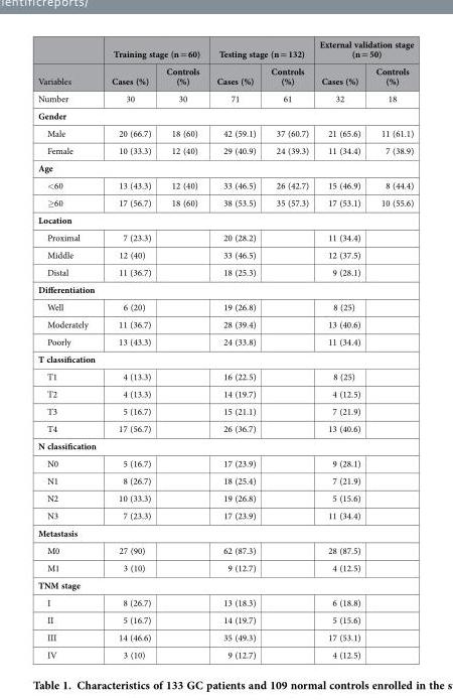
<table><thead><tr><td rowspan="2">Variables</td><td colspan="2">Training stage (n = 60)</td><td colspan="2">Testing stage (n = 132)</td><td colspan="2">External validation stage (n = 50)</td></tr><tr><td>Cases (%)</td><td>Controls (%)</td><td>Cases (%)</td><td>Controls (%)</td><td>Cases (%)</td><td>Controls (%)</td></tr></thead><tbody><tr><td>Number</td><td>30</td><td>30</td><td>71</td><td>61</td><td>32</td><td>18</td></tr><tr><td colspan="7">Gender</td></tr><tr><td>Male</td><td>20 (66.7)</td><td>18 (60)</td><td>42 (59.1)</td><td>37 (60.7)</td><td>21 (65.6)</td><td>11 (61.1)</td></tr><tr><td>Female</td><td>10 (33.3)</td><td>12 (40)</td><td>29 (40.9)</td><td>24 (39.3)</td><td>11 (34.4)</td><td>7 (38.9)</td></tr><tr><td colspan="7">Age</td></tr><tr><td>&lt;60</td><td>13 (43.3)</td><td>12 (40)</td><td>33 (46.5)</td><td>26 (42.7)</td><td>15 (46.9)</td><td>8 (44.4)</td></tr><tr><td>≥60</td><td>17 (56.7)</td><td>18 (60)</td><td>38 (53.5)</td><td>35 (57.3)</td><td>17 (53.1)</td><td>10 (55.6)</td></tr><tr><td colspan="7">Location</td></tr><tr><td>Proximal</td><td>7 (23.3)</td><td></td><td>20 (28.2)</td><td></td><td>11 (34.4)</td><td></td></tr><tr><td>Middle</td><td>12 (40)</td><td></td><td>33 (46.5)</td><td></td><td>12 (37.5)</td><td></td></tr><tr><td>Distal</td><td>11 (36.7)</td><td></td><td>18 (25.3)</td><td></td><td>9 (28.1)</td><td></td></tr><tr><td colspan="7">Differentiation</td></tr><tr><td>Well</td><td>6 (20)</td><td></td><td>19 (26.8)</td><td></td><td>8 (25)</td><td></td></tr><tr><td>Moderately</td><td>11 (36.7)</td><td></td><td>28 (39.4)</td><td></td><td>13 (40.6)</td><td></td></tr><tr><td>Poorly</td><td>13 (43.3)</td><td></td><td>24 (33.8)</td><td></td><td>11 (34.4)</td><td></td></tr><tr><td colspan="7">T classification</td></tr><tr><td>T1</td><td>4 (13.3)</td><td></td><td>16 (22.5)</td><td></td><td>8 (25)</td><td></td></tr><tr><td>T2</td><td>4 (13.3)</td><td></td><td>14 (19.7)</td><td></td><td>4 (12.5)</td><td></td></tr><tr><td>T3</td><td>5 (16.7)</td><td></td><td>15 (21.1)</td><td></td><td>7 (21.9)</td><td></td></tr><tr><td>T4</td><td>17 (56.7)</td><td></td><td>26 (36.7)</td><td></td><td>13 (40.6)</td><td></td></tr><tr><td colspan="7">N classification</td></tr><tr><td>N0</td><td>5 (16.7)</td><td></td><td>17 (23.9)</td><td></td><td>9 (28.1)</td><td></td></tr><tr><td>N1</td><td>8 (26.7)</td><td></td><td>18 (25.4)</td><td></td><td>7 (21.9)</td><td></td></tr><tr><td>N2</td><td>10 (33.3)</td><td></td><td>19 (26.8)</td><td></td><td>5 (15.6)</td><td></td></tr><tr><td>N3</td><td>7 (23.3)</td><td></td><td>17 (23.9)</td><td></td><td>11 (34.4)</td><td></td></tr><tr><td colspan="7">Metastasis</td></tr><tr><td>M0</td><td>27 (90)</td><td></td><td>62 (87.3)</td><td></td><td>28 (87.5)</td><td></td></tr><tr><td>M1</td><td>3 (10)</td><td></td><td>9 (12.7)</td><td></td><td>4 (12.5)</td><td></td></tr><tr><td colspan="7">TNM stage</td></tr><tr><td>I</td><td>8 (26.7)</td><td></td><td>13 (18.3)</td><td></td><td>6 (18.8)</td><td></td></tr><tr><td>II</td><td>5 (16.7)</td><td></td><td>14 (19.7)</td><td></td><td>5 (15.6)</td><td></td></tr><tr><td>III</td><td>14 (46.6)</td><td></td><td>35 (49.3)</td><td></td><td>17 (53.1)</td><td></td></tr><tr><td>IV</td><td>3 (10)</td><td></td><td>9 (12.7)</td><td></td><td>4 (12.5)</td><td></td></tr></tbody></table>